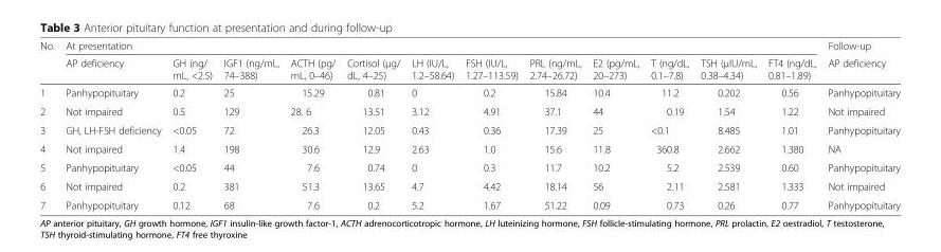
<table><thead><tr><td rowspan="2">No.</td><td colspan="12">At presentation</td><td rowspan="2">Follow-up AP deficiency</td></tr><tr><td>AP deficiency</td><td>GH (ng/ mL, &lt;2.5)</td><td>IGF1 (ng/mL, 74–388)</td><td>ACTH (pg/ mL, 0–46)</td><td>Cortisol (μg/ dL, 4–25)</td><td>LH (IU/L, 1.2–58.64)</td><td>FSH (IU/L, 1.27–113.59)</td><td>PRL (ng/mL, 2.74–26.72)</td><td>E2 (pg/mL, 20–273)</td><td>T (ng/dL, 0.1–7.8)</td><td>TSH (μIU/mL, 0.38–4.34)</td><td>FT4 (ng/dL, 0.81–1.89)</td></tr></thead><tbody><tr><td>1</td><td>Panhypopituitary</td><td>0.2</td><td>25</td><td>15.29</td><td>0.81</td><td>0</td><td>0.2</td><td>15.84</td><td>10.4</td><td>11.2</td><td>0.202</td><td>0.56</td><td>Panhypopituitary</td></tr><tr><td>2</td><td>Not impaired</td><td>0.5</td><td>129</td><td>28. 6</td><td>13.51</td><td>3.12</td><td>4.91</td><td>37.1</td><td>44</td><td>0.19</td><td>1.54</td><td>1.22</td><td>Not impaired</td></tr><tr><td>3</td><td>GH, LH-FSH deficiency</td><td>&lt;0.05</td><td>72</td><td>26.3</td><td>12.05</td><td>0.43</td><td>0.36</td><td>17.39</td><td>25</td><td>&lt;0.1</td><td>8.485</td><td>1.01</td><td>Panhypopituitary</td></tr><tr><td>4</td><td>Not impaired</td><td>1.4</td><td>198</td><td>30.6</td><td>12.9</td><td>2.63</td><td>1.0</td><td>15.6</td><td>11.8</td><td>360.8</td><td>2.662</td><td>1.380</td><td>NA</td></tr><tr><td>5</td><td>Panhypopituitary</td><td>&lt;0.05</td><td>44</td><td>7.6</td><td>0.74</td><td>0</td><td>0.3</td><td>11.7</td><td>10.2</td><td>5.2</td><td>2.539</td><td>0.60</td><td>Panhypopituitary</td></tr><tr><td>6</td><td>Not impaired</td><td>0.2</td><td>381</td><td>51.3</td><td>13.65</td><td>4.7</td><td>4.42</td><td>18.14</td><td>56</td><td>2.11</td><td>2.581</td><td>1.333</td><td>Not impaired</td></tr><tr><td>7</td><td>Panhypopituitary</td><td>0.12</td><td>68</td><td>7.6</td><td>0.2</td><td>5.2</td><td>1.67</td><td>51.22</td><td>0.09</td><td>0.73</td><td>0.26</td><td>0.77</td><td>Panhypopituitary</td></tr></tbody></table>